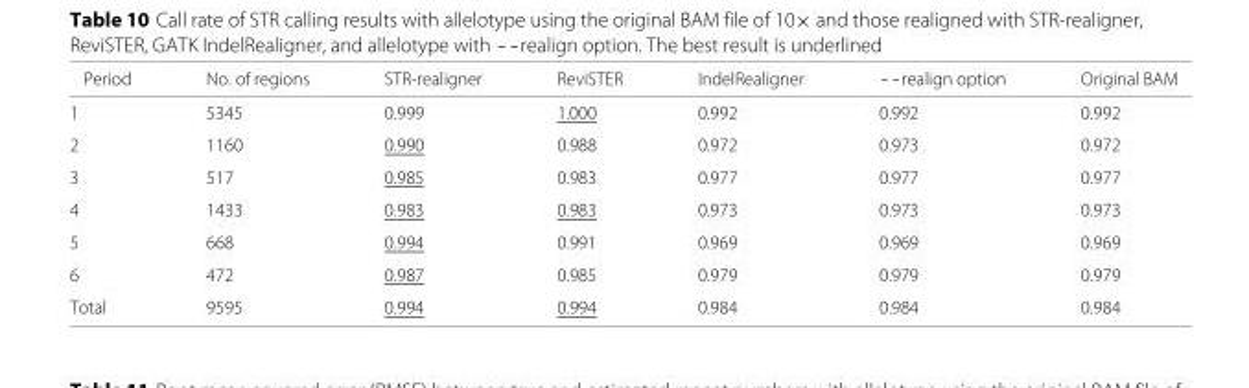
<table><thead><tr><td>Period</td><td>No. of regions</td><td>STR-realigner</td><td>ReviSTER</td><td>IndelRealigner</td><td>--realign option</td><td>Original BAM</td></tr></thead><tbody><tr><td>1</td><td>5345</td><td>0.999</td><td>1.000</td><td>0.992</td><td>0.992</td><td>0.992</td></tr><tr><td>2</td><td>1160</td><td>0.990</td><td>0.988</td><td>0.972</td><td>0.973</td><td>0.972</td></tr><tr><td>3</td><td>517</td><td>0.985</td><td>0.983</td><td>0.977</td><td>0.977</td><td>0.977</td></tr><tr><td>4</td><td>1433</td><td>0.983</td><td>0.983</td><td>0.973</td><td>0.973</td><td>0.973</td></tr><tr><td>5</td><td>668</td><td>0.994</td><td>0.991</td><td>0.969</td><td>0.969</td><td>0.969</td></tr><tr><td>6</td><td>472</td><td>0.987</td><td>0.985</td><td>0.979</td><td>0.979</td><td>0.979</td></tr><tr><td>Total</td><td>9595</td><td>0.994</td><td>0.994</td><td>0.984</td><td>0.984</td><td>0.984</td></tr></tbody></table>